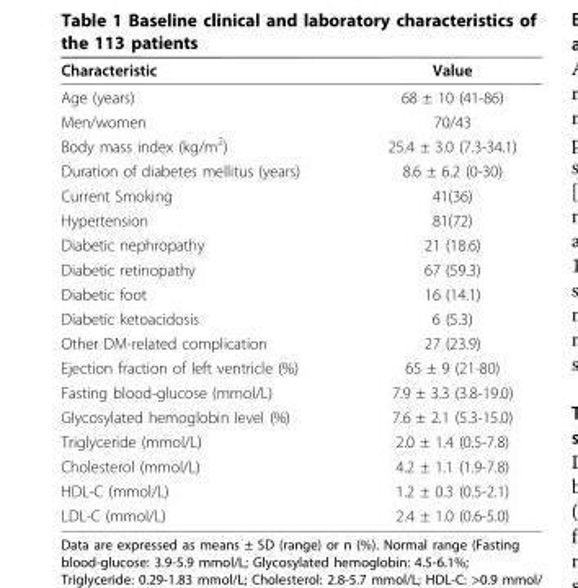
<table><thead><tr><td>Characteristic</td><td>Value</td></tr></thead><tbody><tr><td>Age (years)</td><td>68 ± 10 (41-86)</td></tr><tr><td>Men/women</td><td>70/43</td></tr><tr><td>Body mass index (kg/m<sup>2</sup>)</td><td>25.4 ± 3.0 (7.3-34.1)</td></tr><tr><td>Duration of diabetes mellitus (years)</td><td>8.6 ± 6.2 (0-30)</td></tr><tr><td>Current Smoking</td><td>41(36)</td></tr><tr><td>Hypertension</td><td>81(72)</td></tr><tr><td>Diabetic nephropathy</td><td>21 (18.6)</td></tr><tr><td>Diabetic retinopathy</td><td>67 (59.3)</td></tr><tr><td>Diabetic foot</td><td>16 (14.1)</td></tr><tr><td>Diabetic ketoacidosis</td><td>6 (5.3)</td></tr><tr><td>Other DM-related complication</td><td>27 (23.9)</td></tr><tr><td>Ejection fraction of left ventricle (%)</td><td>65 ± 9 (21-80)</td></tr><tr><td>Fasting blood-glucose (mmol/L)</td><td>7.9 ± 3.3 (3.8-19.0)</td></tr><tr><td>Glycosylated hemoglobin level (%)</td><td>7.6 ± 2.1 (5.3-15.0)</td></tr><tr><td>Triglyceride (mmol/L)</td><td>2.0 ± 1.4 (0.5-7.8)</td></tr><tr><td>Cholesterol (mmol/L)</td><td>4.2 ± 1.1 (1.9-7.8)</td></tr><tr><td>HDL-C (mmol/L)</td><td>1.2 ± 0.3 (0.5-2.1)</td></tr><tr><td>LDL-C (mmol/L)</td><td>2.4 ± 1.0 (0.6-5.0)</td></tr></tbody></table>